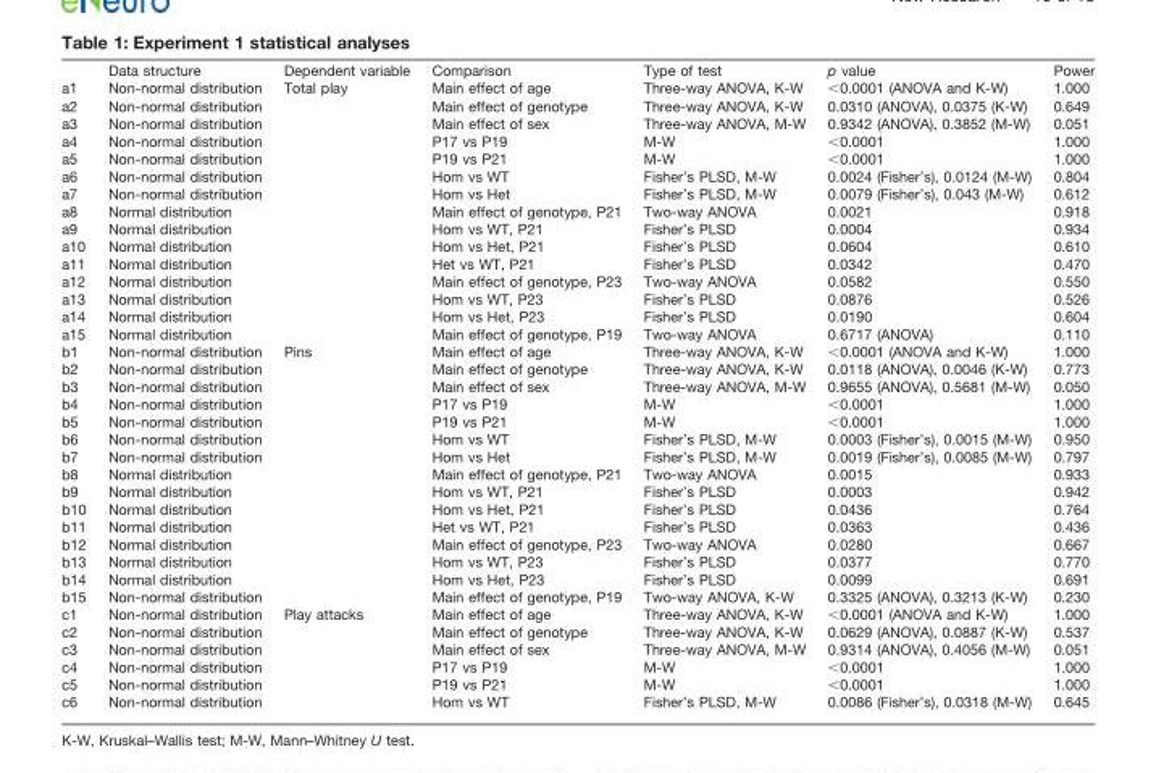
<table><thead><tr><td></td><td>Data structure</td><td>Dependent variable</td><td>Comparison</td><td>Type of test</td><td>p value</td><td>Power</td></tr></thead><tbody><tr><td>a1</td><td>Non-normal distribution</td><td>Total play</td><td>Main effect of age</td><td>Three-way ANOVA, K-W</td><td>&lt;0.0001 (ANOVA and K-W)</td><td>1.000</td></tr><tr><td>a2</td><td>Non-normal distribution</td><td></td><td>Main effect of genotype</td><td>Three-way ANOVA, K-W</td><td>0.0310 (ANOVA), 0.0375 (K-W)</td><td>0.649</td></tr><tr><td>a3</td><td>Non-normal distribution</td><td></td><td>Main effect of sex</td><td>Three-way ANOVA, M-W</td><td>0.9342 (ANOVA), 0.3852 (M-W)</td><td>0.051</td></tr><tr><td>a4</td><td>Non-normal distribution</td><td></td><td>P17 vs P19</td><td>M-W</td><td>&lt;0.0001</td><td>1.000</td></tr><tr><td>a5</td><td>Non-normal distribution</td><td></td><td>P19 vs P21</td><td>M-W</td><td>&lt;0.0001</td><td>1.000</td></tr><tr><td>a6</td><td>Non-normal distribution</td><td></td><td>Hom vs WT</td><td>Fisher’s PLSD, M-W</td><td>0.0024 (Fisher’s), 0.0124 (M-W)</td><td>0.804</td></tr><tr><td>a7</td><td>Non-normal distribution</td><td></td><td>Hom vs Het</td><td>Fisher’s PLSD, M-W</td><td>0.0079 (Fisher’s), 0.043 (M-W)</td><td>0.612</td></tr><tr><td>a8</td><td>Normal distribution</td><td></td><td>Main effect of genotype, P21</td><td>Two-way ANOVA</td><td>0.0021</td><td>0.918</td></tr><tr><td>a9</td><td>Normal distribution</td><td></td><td>Hom vs WT, P21</td><td>Fisher’s PLSD</td><td>0.0004</td><td>0.934</td></tr><tr><td>a10</td><td>Normal distribution</td><td></td><td>Hom vs Het, P21</td><td>Fisher’s PLSD</td><td>0.0604</td><td>0.610</td></tr><tr><td>a11</td><td>Normal distribution</td><td></td><td>Het vs WT, P21</td><td>Fisher’s PLSD</td><td>0.0342</td><td>0.470</td></tr><tr><td>a12</td><td>Normal distribution</td><td></td><td>Main effect of genotype, P23</td><td>Two-way ANOVA</td><td>0.0582</td><td>0.550</td></tr><tr><td>a13</td><td>Normal distribution</td><td></td><td>Hom vs WT, P23</td><td>Fisher’s PLSD</td><td>0.0876</td><td>0.526</td></tr><tr><td>a14</td><td>Normal distribution</td><td></td><td>Hom vs Het, P23</td><td>Fisher’s PLSD</td><td>0.0190</td><td>0.604</td></tr><tr><td>a15</td><td>Normal distribution</td><td></td><td>Main effect of genotype, P19</td><td>Two-way ANOVA</td><td>0.6717 (ANOVA)</td><td>0.110</td></tr><tr><td>b1</td><td>Non-normal distribution</td><td>Pins</td><td>Main effect of age</td><td>Three-way ANOVA, K-W</td><td>&lt;0.0001 (ANOVA and K-W)</td><td>1.000</td></tr><tr><td>b2</td><td>Non-normal distribution</td><td></td><td>Main effect of genotype</td><td>Three-way ANOVA, K-W</td><td>0.0118 (ANOVA), 0.0046 (K-W)</td><td>0.773</td></tr><tr><td>b3</td><td>Non-normal distribution</td><td></td><td>Main effect of sex</td><td>Three-way ANOVA, M-W</td><td>0.9655 (ANOVA), 0.5681 (M-W)</td><td>0.050</td></tr><tr><td>b4</td><td>Non-normal distribution</td><td></td><td>P17 vs P19</td><td>M-W</td><td>&lt;0.0001</td><td>1.000</td></tr><tr><td>b5</td><td>Non-normal distribution</td><td></td><td>P19 vs P21</td><td>M-W</td><td>&lt;0.0001</td><td>1.000</td></tr><tr><td>b6</td><td>Non-normal distribution</td><td></td><td>Hom vs WT</td><td>Fisher’s PLSD, M-W</td><td>0.0003 (Fisher’s), 0.0015 (M-W)</td><td>0.950</td></tr><tr><td>b7</td><td>Non-normal distribution</td><td></td><td>Hom vs Het</td><td>Fisher’s PLSD, M-W</td><td>0.0019 (Fisher’s), 0.0085 (M-W)</td><td>0.797</td></tr><tr><td>b8</td><td>Normal distribution</td><td></td><td>Main effect of genotype, P21</td><td>Two-way ANOVA</td><td>0.0015</td><td>0.933</td></tr><tr><td>b9</td><td>Normal distribution</td><td></td><td>Hom vs WT, P21</td><td>Fisher’s PLSD</td><td>0.0003</td><td>0.942</td></tr><tr><td>b10</td><td>Normal distribution</td><td></td><td>Hom vs Het, P21</td><td>Fisher’s PLSD</td><td>0.0436</td><td>0.764</td></tr><tr><td>b11</td><td>Normal distribution</td><td></td><td>Het vs WT, P21</td><td>Fisher’s PLSD</td><td>0.0363</td><td>0.436</td></tr><tr><td>b12</td><td>Normal distribution</td><td></td><td>Main effect of genotype, P23</td><td>Two-way ANOVA</td><td>0.0280</td><td>0.667</td></tr><tr><td>b13</td><td>Normal distribution</td><td></td><td>Hom vs WT, P23</td><td>Fisher’s PLSD</td><td>0.0377</td><td>0.770</td></tr><tr><td>b14</td><td>Normal distribution</td><td></td><td>Hom vs Het, P23</td><td>Fisher’s PLSD</td><td>0.0099</td><td>0.691</td></tr><tr><td>b15</td><td>Non-normal distribution</td><td></td><td>Main effect of genotype, P19</td><td>Two-way ANOVA, K-W</td><td>0.3325 (ANOVA), 0.3213 (K-W)</td><td>0.230</td></tr><tr><td>c1</td><td>Non-normal distribution</td><td>Play attacks</td><td>Main effect of age</td><td>Three-way ANOVA, K-W</td><td>&lt;0.0001 (ANOVA and K-W)</td><td>1.000</td></tr><tr><td>c2</td><td>Non-normal distribution</td><td></td><td>Main effect of genotype</td><td>Three-way ANOVA, K-W</td><td>0.0629 (ANOVA), 0.0887 (K-W)</td><td>0.537</td></tr><tr><td>c3</td><td>Non-normal distribution</td><td></td><td>Main effect of sex</td><td>Three-way ANOVA, M-W</td><td>0.9314 (ANOVA), 0.4056 (M-W)</td><td>0.051</td></tr><tr><td>c4</td><td>Non-normal distribution</td><td></td><td>P17 vs P19</td><td>M-W</td><td>&lt;0.0001</td><td>1.000</td></tr><tr><td>c5</td><td>Non-normal distribution</td><td></td><td>P19 vs P21</td><td>M-W</td><td>&lt;0.0001</td><td>1.000</td></tr><tr><td>c6</td><td>Non-normal distribution</td><td></td><td>Hom vs WT</td><td>Fisher’s PLSD, M-W</td><td>0.0086 (Fisher’s), 0.0318 (M-W)</td><td>0.645</td></tr></tbody></table>